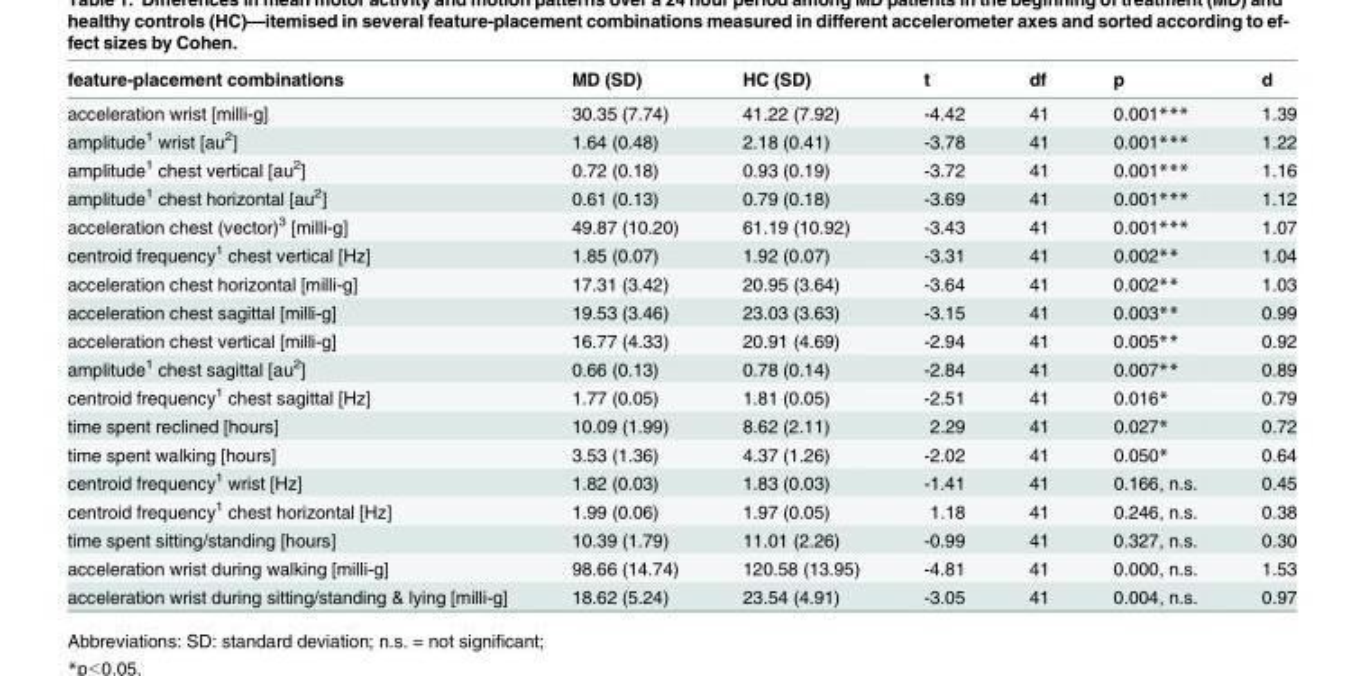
<table><thead><tr><td>feature-placement combinations</td><td>MD (SD)</td><td>HC (SD)</td><td>t</td><td>df</td><td>p</td><td>d</td></tr></thead><tbody><tr><td>acceleration wrist [milli-g]</td><td>30.35 (7.74)</td><td>41.22 (7.92)</td><td>-4.42</td><td>41</td><td>0.001***</td><td>1.39</td></tr><tr><td>amplitude<sup>1</sup> wrist [au<sup>2</sup>]</td><td>1.64 (0.48)</td><td>2.18 (0.41)</td><td>-3.78</td><td>41</td><td>0.001***</td><td>1.22</td></tr><tr><td>amplitude<sup>1</sup> chest vertical [au<sup>2</sup>]</td><td>0.72 (0.18)</td><td>0.93 (0.19)</td><td>-3.72</td><td>41</td><td>0.001***</td><td>1.16</td></tr><tr><td>amplitude<sup>1</sup> chest horizontal [au<sup>2</sup>]</td><td>0.61 (0.13)</td><td>0.79 (0.18)</td><td>-3.69</td><td>41</td><td>0.001***</td><td>1.12</td></tr><tr><td>acceleration chest (vector)<sup>3</sup> [milli-g]</td><td>49.87 (10.20)</td><td>61.19 (10.92)</td><td>-3.43</td><td>41</td><td>0.001***</td><td>1.07</td></tr><tr><td>centroid frequency<sup>1</sup> chest vertical [Hz]</td><td>1.85 (0.07)</td><td>1.92 (0.07)</td><td>-3.31</td><td>41</td><td>0.002**</td><td>1.04</td></tr><tr><td>acceleration chest horizontal [milli-g]</td><td>17.31 (3.42)</td><td>20.95 (3.64)</td><td>-3.64</td><td>41</td><td>0.002**</td><td>1.03</td></tr><tr><td>acceleration chest sagittal [milli-g]</td><td>19.53 (3.46)</td><td>23.03 (3.63)</td><td>-3.15</td><td>41</td><td>0.003**</td><td>0.99</td></tr><tr><td>acceleration chest vertical [milli-g]</td><td>16.77 (4.33)</td><td>20.91 (4.69)</td><td>-2.94</td><td>41</td><td>0.005**</td><td>0.92</td></tr><tr><td>amplitude<sup>1</sup> chest sagittal [au<sup>2</sup>]</td><td>0.66 (0.13)</td><td>0.78 (0.14)</td><td>-2.84</td><td>41</td><td>0.007**</td><td>0.89</td></tr><tr><td>centroid frequency<sup>1</sup> chest sagittal [Hz]</td><td>1.77 (0.05)</td><td>1.81 (0.05)</td><td>-2.51</td><td>41</td><td>0.016*</td><td>0.79</td></tr><tr><td>time spent reclined [hours]</td><td>10.09 (1.99)</td><td>8.62 (2.11)</td><td>2.29</td><td>41</td><td>0.027*</td><td>0.72</td></tr><tr><td>time spent walking [hours]</td><td>3.53 (1.36)</td><td>4.37 (1.26)</td><td>-2.02</td><td>41</td><td>0.050*</td><td>0.64</td></tr><tr><td>centroid frequency<sup>1</sup> wrist [Hz]</td><td>1.82 (0.03)</td><td>1.83 (0.03)</td><td>-1.41</td><td>41</td><td>0.166, n.s.</td><td>0.45</td></tr><tr><td>centroid frequency<sup>1</sup> chest horizontal [Hz]</td><td>1.99 (0.06)</td><td>1.97 (0.05)</td><td>1.18</td><td>41</td><td>0.246, n.s.</td><td>0.38</td></tr><tr><td>time spent sitting/standing [hours]</td><td>10.39 (1.79)</td><td>11.01 (2.26)</td><td>-0.99</td><td>41</td><td>0.327, n.s.</td><td>0.30</td></tr><tr><td>acceleration wrist during walking [milli-g]</td><td>98.66 (14.74)</td><td>120.58 (13.95)</td><td>-4.81</td><td>41</td><td>0.000, n.s.</td><td>1.53</td></tr><tr><td>acceleration wrist during sitting/standing &amp; lying [milli-g]</td><td>18.62 (5.24)</td><td>23.54 (4.91)</td><td>-3.05</td><td>41</td><td>0.004, n.s.</td><td>0.97</td></tr></tbody></table>